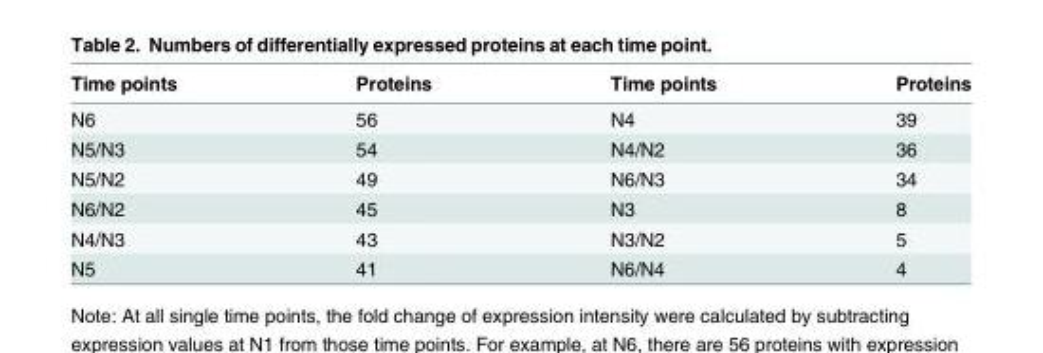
<table><thead><tr><td>Time points</td><td>Proteins</td><td>Time points</td><td>Proteins</td></tr></thead><tbody><tr><td>N6</td><td>56</td><td>N4</td><td>39</td></tr><tr><td>N5/N3</td><td>54</td><td>N4/N2</td><td>36</td></tr><tr><td>N5/N2</td><td>49</td><td>N6/N3</td><td>34</td></tr><tr><td>N6/N2</td><td>45</td><td>N3</td><td>8</td></tr><tr><td>N4/N3</td><td>43</td><td>N3/N2</td><td>5</td></tr><tr><td>N5</td><td>41</td><td>N6/N4</td><td>4</td></tr></tbody></table>